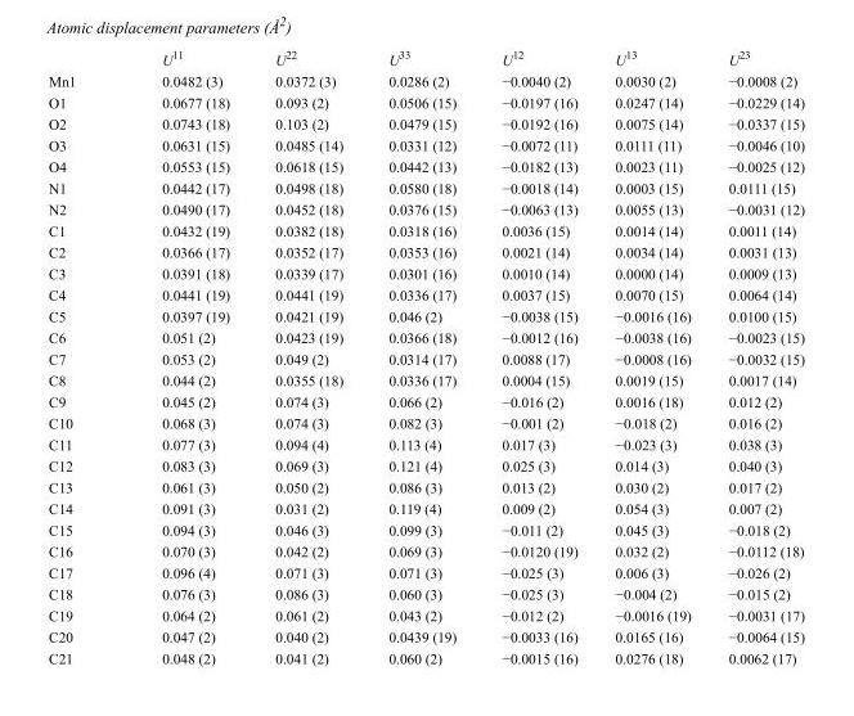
<table><thead><tr><td></td><td>U<sup>11</sup></td><td>U<sup>22</sup></td><td>U<sup>33</sup></td><td>U<sup>12</sup></td><td>U<sup>13</sup></td><td>U<sup>23</sup></td></tr></thead><tbody><tr><td>Mn1</td><td>0.0482 (3)</td><td>0.0372 (3)</td><td>0.0286 (2)</td><td>−0.0040 (2)</td><td>0.0030 (2)</td><td>−0.0008 (2)</td></tr><tr><td>O1</td><td>0.0677 (18)</td><td>0.093 (2)</td><td>0.0506 (15)</td><td>−0.0197 (16)</td><td>0.0247 (14)</td><td>−0.0229 (14)</td></tr><tr><td>O2</td><td>0.0743 (18)</td><td>0.103 (2)</td><td>0.0479 (15)</td><td>−0.0192 (16)</td><td>0.0075 (14)</td><td>−0.0337 (15)</td></tr><tr><td>O3</td><td>0.0631 (15)</td><td>0.0485 (14)</td><td>0.0331 (12)</td><td>−0.0072 (11)</td><td>0.0111 (11)</td><td>−0.0046 (10)</td></tr><tr><td>O4</td><td>0.0553 (15)</td><td>0.0618 (15)</td><td>0.0442 (13)</td><td>−0.0182 (13)</td><td>0.0023 (11)</td><td>−0.0025 (12)</td></tr><tr><td>N1</td><td>0.0442 (17)</td><td>0.0498 (18)</td><td>0.0580 (18)</td><td>−0.0018 (14)</td><td>0.0003 (15)</td><td>0.0111 (15)</td></tr><tr><td>N2</td><td>0.0490 (17)</td><td>0.0452 (18)</td><td>0.0376 (15)</td><td>−0.0063 (13)</td><td>0.0055 (13)</td><td>−0.0031 (12)</td></tr><tr><td>C1</td><td>0.0432 (19)</td><td>0.0382 (18)</td><td>0.0318 (16)</td><td>0.0036 (15)</td><td>0.0014 (14)</td><td>0.0011 (14)</td></tr><tr><td>C2</td><td>0.0366 (17)</td><td>0.0352 (17)</td><td>0.0353 (16)</td><td>0.0021 (14)</td><td>0.0034 (14)</td><td>0.0031 (13)</td></tr><tr><td>C3</td><td>0.0391 (18)</td><td>0.0339 (17)</td><td>0.0301 (16)</td><td>0.0010 (14)</td><td>0.0000 (14)</td><td>0.0009 (13)</td></tr><tr><td>C4</td><td>0.0441 (19)</td><td>0.0441 (19)</td><td>0.0336 (17)</td><td>0.0037 (15)</td><td>0.0070 (15)</td><td>0.0064 (14)</td></tr><tr><td>C5</td><td>0.0397 (19)</td><td>0.0421 (19)</td><td>0.046 (2)</td><td>−0.0038 (15)</td><td>−0.0016 (16)</td><td>0.0100 (15)</td></tr><tr><td>C6</td><td>0.051 (2)</td><td>0.0423 (19)</td><td>0.0366 (18)</td><td>−0.0012 (16)</td><td>−0.0038 (16)</td><td>−0.0023 (15)</td></tr><tr><td>C7</td><td>0.053 (2)</td><td>0.049 (2)</td><td>0.0314 (17)</td><td>0.0088 (17)</td><td>−0.0008 (16)</td><td>−0.0032 (15)</td></tr><tr><td>C8</td><td>0.044 (2)</td><td>0.0355 (18)</td><td>0.0336 (17)</td><td>0.0004 (15)</td><td>0.0019 (15)</td><td>0.0017 (14)</td></tr><tr><td>C9</td><td>0.045 (2)</td><td>0.074 (3)</td><td>0.066 (2)</td><td>−0.016 (2)</td><td>0.0016 (18)</td><td>0.012 (2)</td></tr><tr><td>C10</td><td>0.068 (3)</td><td>0.074 (3)</td><td>0.082 (3)</td><td>−0.001 (2)</td><td>−0.018 (2)</td><td>0.016 (2)</td></tr><tr><td>C11</td><td>0.077 (3)</td><td>0.094 (4)</td><td>0.113 (4)</td><td>0.017 (3)</td><td>−0.023 (3)</td><td>0.038 (3)</td></tr><tr><td>C12</td><td>0.083 (3)</td><td>0.069 (3)</td><td>0.121 (4)</td><td>0.025 (3)</td><td>0.014 (3)</td><td>0.040 (3)</td></tr><tr><td>C13</td><td>0.061 (3)</td><td>0.050 (2)</td><td>0.086 (3)</td><td>0.013 (2)</td><td>0.030 (2)</td><td>0.017 (2)</td></tr><tr><td>C14</td><td>0.091 (3)</td><td>0.031 (2)</td><td>0.119 (4)</td><td>0.009 (2)</td><td>0.054 (3)</td><td>0.007 (2)</td></tr><tr><td>C15</td><td>0.094 (3)</td><td>0.046 (3)</td><td>0.099 (3)</td><td>−0.011 (2)</td><td>0.045 (3)</td><td>−0.018 (2)</td></tr><tr><td>C16</td><td>0.070 (3)</td><td>0.042 (2)</td><td>0.069 (3)</td><td>−0.0120 (19)</td><td>0.032 (2)</td><td>−0.0112 (18)</td></tr><tr><td>C17</td><td>0.096 (4)</td><td>0.071 (3)</td><td>0.071 (3)</td><td>−0.025 (3)</td><td>0.006 (3)</td><td>−0.026 (2)</td></tr><tr><td>C18</td><td>0.076 (3)</td><td>0.086 (3)</td><td>0.060 (3)</td><td>−0.025 (3)</td><td>−0.004 (2)</td><td>−0.015 (2)</td></tr><tr><td>C19</td><td>0.064 (2)</td><td>0.061 (2)</td><td>0.043 (2)</td><td>−0.012 (2)</td><td>−0.0016 (19)</td><td>−0.0031 (17)</td></tr><tr><td>C20</td><td>0.047 (2)</td><td>0.040 (2)</td><td>0.0439 (19)</td><td>−0.0033 (16)</td><td>0.0165 (16)</td><td>−0.0064 (15)</td></tr><tr><td>C21</td><td>0.048 (2)</td><td>0.041 (2)</td><td>0.060 (2)</td><td>−0.0015 (16)</td><td>0.0276 (18)</td><td>0.0062 (17)</td></tr></tbody></table>